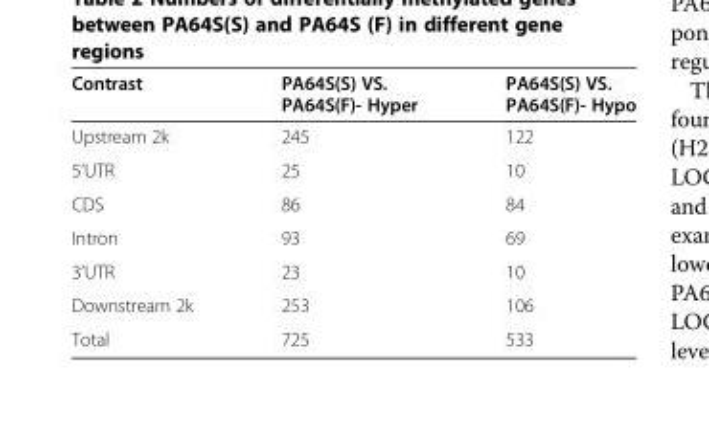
<table><thead><tr><td>Contrast</td><td>PA64S(S) VS. PA64S(F)- Hyper</td><td>PA64S(S) VS. PA64S(F)- Hypo</td></tr></thead><tbody><tr><td>Upstream 2k</td><td>245</td><td>122</td></tr><tr><td>5’UTR</td><td>25</td><td>10</td></tr><tr><td>CDS</td><td>86</td><td>84</td></tr><tr><td>Intron</td><td>93</td><td>69</td></tr><tr><td>3’UTR</td><td>23</td><td>10</td></tr><tr><td>Downstream 2k</td><td>253</td><td>106</td></tr><tr><td>Total</td><td>725</td><td>533</td></tr></tbody></table>